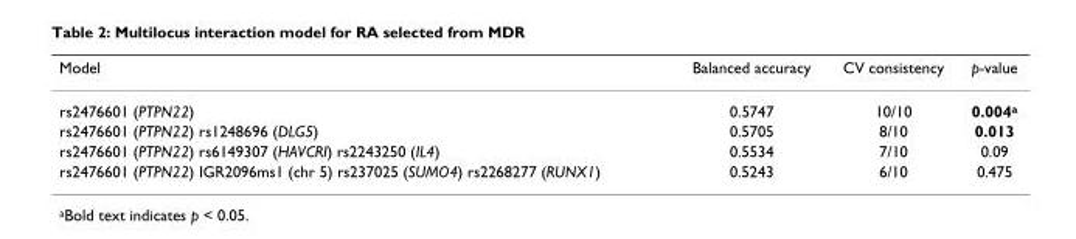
<table><thead><tr><td>Model</td><td>Balanced accuracy</td><td>CV consistency</td><td>p-value</td></tr></thead><tbody><tr><td>rs2476601 (PTPN22)</td><td>0.5747</td><td>10/10</td><td>0.004<sup>a</sup></td></tr><tr><td>rs2476601 (PTPN22) rs1248696 (DLG5)</td><td>0.5705</td><td>8/10</td><td>0.013</td></tr><tr><td>rs2476601 (PTPN22) rs6149307 (HAVCRI) rs2243250 (IL4)</td><td>0.5534</td><td>7/10</td><td>0.09</td></tr><tr><td>rs2476601 (PTPN22) IGR2096ms1 (chr 5) rs237025 (SUMO4) rs2268277 (RUNX1)</td><td>0.5243</td><td>6/10</td><td>0.475</td></tr></tbody></table>